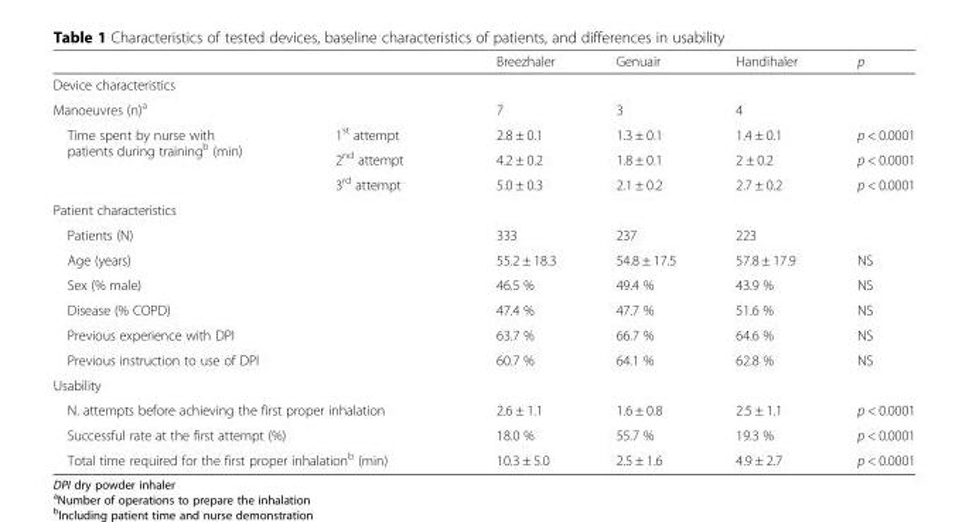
<table><thead><tr><td></td><td></td><td>Breezhaler</td><td>Genuair</td><td>Handihaler</td><td>p</td></tr></thead><tbody><tr><td colspan="6">Device characteristics</td></tr><tr><td colspan="2">Manoeuvres (n)<sup>a</sup></td><td>7</td><td>3</td><td>4</td><td></td></tr><tr><td rowspan="3">Time spent by nurse with patients during training<sup>b</sup> (min)</td><td>1<sup>st</sup> attempt</td><td>2.8 ± 0.1</td><td>1.3 ± 0.1</td><td>1.4 ± 0.1</td><td>p &lt; 0.0001</td></tr><tr><td>2<sup>nd</sup> attempt</td><td>4.2 ± 0.2</td><td>1.8 ± 0.1</td><td>2 ± 0.2</td><td>p &lt; 0.0001</td></tr><tr><td>3<sup>rd</sup> attempt</td><td>5.0 ± 0.3</td><td>2.1 ± 0.2</td><td>2.7 ± 0.2</td><td>p &lt; 0.0001</td></tr><tr><td colspan="6">Patient characteristics</td></tr><tr><td colspan="2">Patients (N)</td><td>333</td><td>237</td><td>223</td><td></td></tr><tr><td colspan="2">Age (years)</td><td>55.2 ± 18.3</td><td>54.8 ± 17.5</td><td>57.8 ± 17.9</td><td>NS</td></tr><tr><td colspan="2">Sex (% male)</td><td>46.5 %</td><td>49.4 %</td><td>43.9 %</td><td>NS</td></tr><tr><td colspan="2">Disease (% COPD)</td><td>47.4 %</td><td>47.7 %</td><td>51.6 %</td><td>NS</td></tr><tr><td colspan="2">Previous experience with DPI</td><td>63.7 %</td><td>66.7 %</td><td>64.6 %</td><td>NS</td></tr><tr><td colspan="2">Previous instruction to use of DPI</td><td>60.7 %</td><td>64.1 %</td><td>62.8 %</td><td>NS</td></tr><tr><td colspan="6">Usability</td></tr><tr><td colspan="2">N. attempts before achieving the first proper inhalation</td><td>2.6 ± 1.1</td><td>1.6 ± 0.8</td><td>2.5 ± 1.1</td><td>p &lt; 0.0001</td></tr><tr><td colspan="2">Successful rate at the first attempt (%)</td><td>18.0 %</td><td>55.7 %</td><td>19.3 %</td><td>p &lt; 0.0001</td></tr><tr><td colspan="2">Total time required for the first proper inhalation<sup>b</sup> (min)</td><td>10.3 ± 5.0</td><td>2.5 ± 1.6</td><td>4.9 ± 2.7</td><td>p &lt; 0.0001</td></tr></tbody></table>